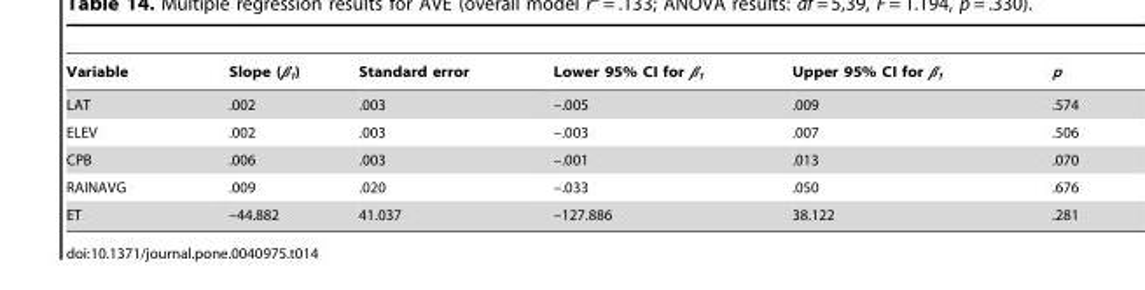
<table><thead><tr><td>Variable</td><td>Slope (β<sub>1</sub>)</td><td>Standard error</td><td>Lower 95% CI for β<sub>1</sub></td><td>Upper 95% CI for β<sub>1</sub></td><td>p</td></tr></thead><tbody><tr><td>LAT</td><td>.002</td><td>.003</td><td>–.005</td><td>.009</td><td>.574</td></tr><tr><td>ELEV</td><td>.002</td><td>.003</td><td>–.003</td><td>.007</td><td>.506</td></tr><tr><td>CPB</td><td>.006</td><td>.003</td><td>–.001</td><td>.013</td><td>.070</td></tr><tr><td>RAINAVG</td><td>.009</td><td>.020</td><td>–.033</td><td>.050</td><td>.676</td></tr><tr><td>ET</td><td>–44.882</td><td>41.037</td><td>–127.886</td><td>38.122</td><td>.281</td></tr></tbody></table>